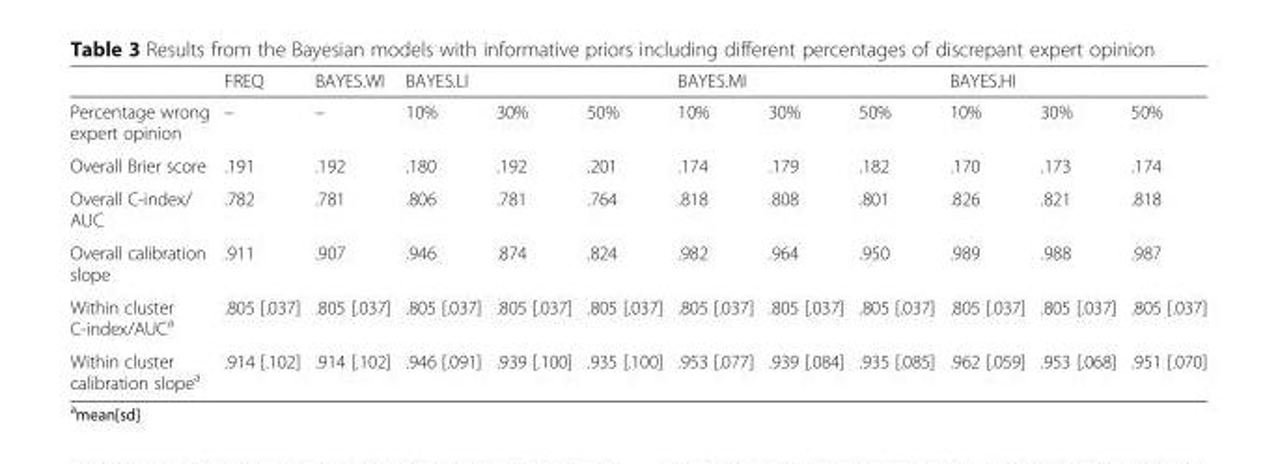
<table><thead><tr><td rowspan="2">Percentage wrong expert opinion</td><td rowspan="2">FREQ –</td><td rowspan="2">BAYES.WI –</td><td colspan="3">BAYES.LI</td><td colspan="3">BAYES.MI</td><td colspan="3">BAYES.HI</td></tr><tr><td>10%</td><td>30%</td><td>50%</td><td>10%</td><td>30%</td><td>50%</td><td>10%</td><td>30%</td><td>50%</td></tr></thead><tbody><tr><td>Overall Brier score</td><td>.191</td><td>.192</td><td>.180</td><td>.192</td><td>.201</td><td>.174</td><td>.179</td><td>.182</td><td>.170</td><td>.173</td><td>.174</td></tr><tr><td>Overall C-index/ AUC</td><td>.782</td><td>.781</td><td>.806</td><td>.781</td><td>.764</td><td>.818</td><td>.808</td><td>.801</td><td>.826</td><td>.821</td><td>.818</td></tr><tr><td>Overall calibration slope</td><td>.911</td><td>.907</td><td>.946</td><td>.874</td><td>.824</td><td>.982</td><td>.964</td><td>.950</td><td>.989</td><td>.988</td><td>.987</td></tr><tr><td>Within cluster C-index/AUC<sup>a</sup></td><td>.805 [.037]</td><td>.805 [.037]</td><td>.805 [.037]</td><td>.805 [.037]</td><td>.805 [.037]</td><td>.805 [.037]</td><td>.805 [.037]</td><td>.805 [.037]</td><td>.805 [.037]</td><td>.805 [.037]</td><td>.805 [.037]</td></tr><tr><td>Within cluster calibration slope<sup>a</sup></td><td>.914 [.102]</td><td>.914 [.102]</td><td>.946 [.091]</td><td>.939 [.100]</td><td>.935 [.100]</td><td>.953 [.077]</td><td>.939 [.084]</td><td>.935 [.085]</td><td>.962 [.059]</td><td>.953 [.068]</td><td>.951 [.070]</td></tr></tbody></table>